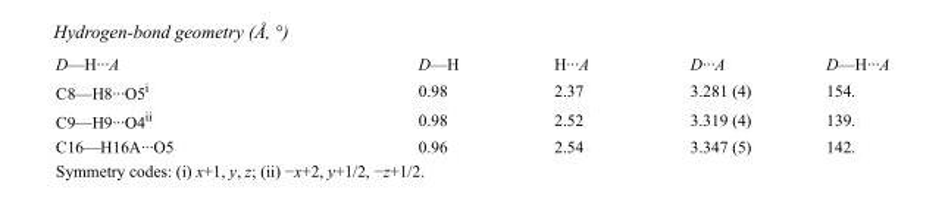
<table><tbody><tr><td>D—H···A</td><td>D—H</td><td>H···A</td><td>D···A</td><td>D—H···A</td></tr><tr><td>C8—H8···O5<sup>i</sup></td><td>0.98</td><td>2.37</td><td>3.281 (4)</td><td>154.</td></tr><tr><td>C9—H9···O4<sup>ii</sup></td><td>0.98</td><td>2.52</td><td>3.319 (4)</td><td>139.</td></tr><tr><td>C16—H16A···O5</td><td>0.96</td><td>2.54</td><td>3.347 (5)</td><td>142.</td></tr></tbody></table>